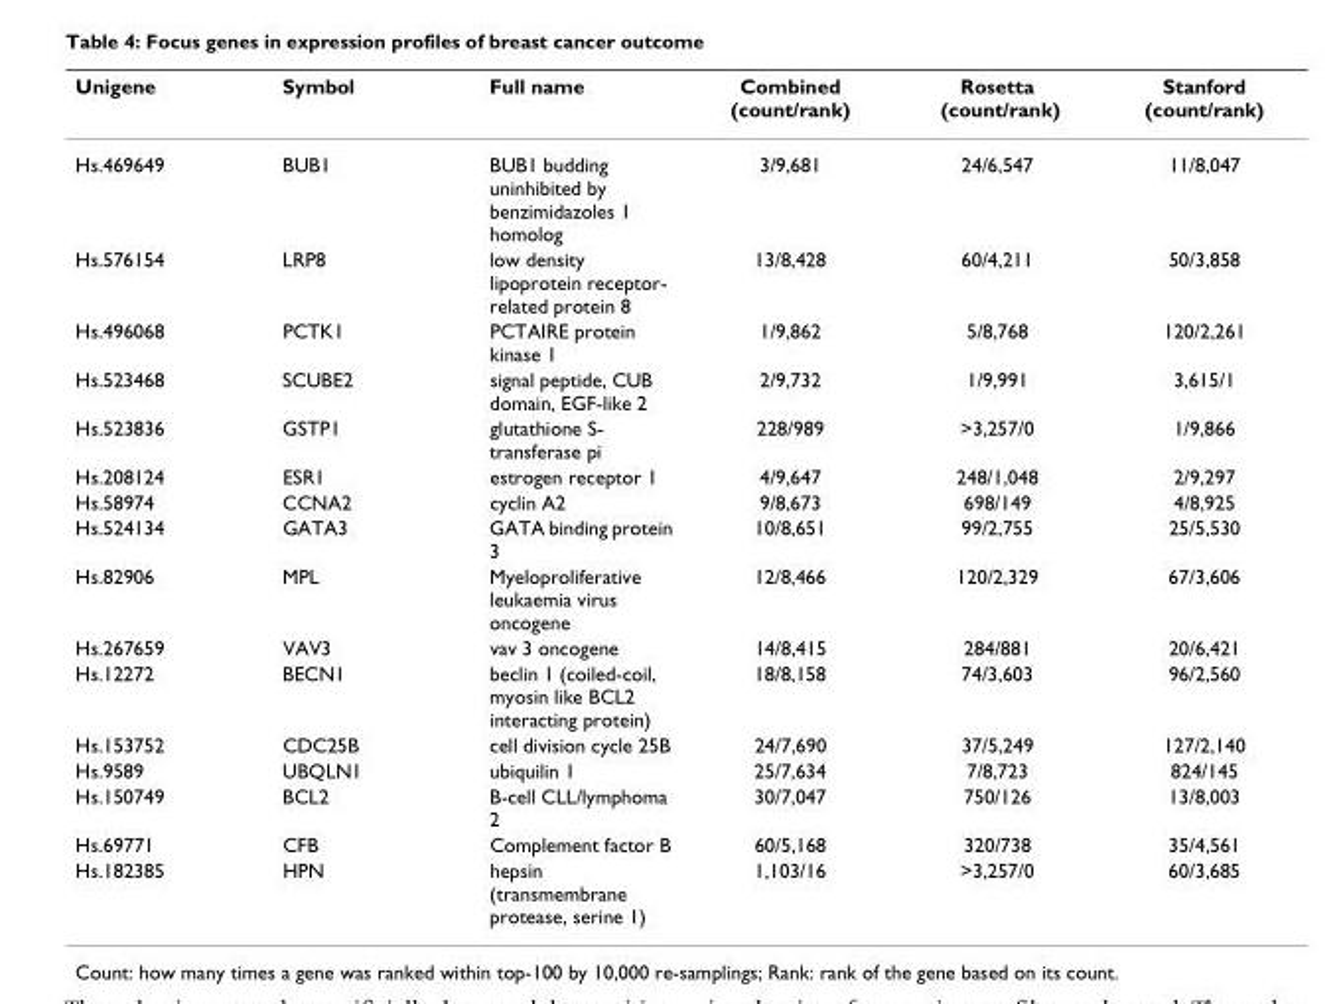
<table><thead><tr><td>Unigene</td><td>Symbol</td><td>Full name</td><td>Combined (count/rank)</td><td>Rosetta (count/rank)</td><td>Stanford (count/rank)</td></tr></thead><tbody><tr><td>Hs.469649</td><td>BUB1</td><td>BUB1 budding uninhibited by benzimidazoles 1 homolog</td><td>3/9,681</td><td>24/6,547</td><td>11/8,047</td></tr><tr><td>Hs.576154</td><td>LRP8</td><td>low density lipoprotein receptor- related protein 8</td><td>13/8,428</td><td>60/4,211</td><td>50/3,858</td></tr><tr><td>Hs.496068</td><td>PCTK1</td><td>PCTAIRE protein kinase 1</td><td>1/9,862</td><td>5/8,768</td><td>120/2,261</td></tr><tr><td>Hs.523468</td><td>SCUBE2</td><td>signal peptide, CUB domain, EGF-like 2</td><td>2/9,732</td><td>1/9,991</td><td>3,615/1</td></tr><tr><td>Hs.523836</td><td>GSTP1</td><td>glutathione S- transferase pi</td><td>228/989</td><td>&gt;3,257/0</td><td>1/9,866</td></tr><tr><td>Hs.208124</td><td>ESR1</td><td>estrogen receptor 1</td><td>4/9,647</td><td>248/1,048</td><td>2/9,297</td></tr><tr><td>Hs.58974</td><td>CCNA2</td><td>cyclin A2</td><td>9/8,673</td><td>698/149</td><td>4/8,925</td></tr><tr><td>Hs.524134</td><td>GATA3</td><td>GATA binding protein 3</td><td>10/8,651</td><td>99/2,755</td><td>25/5,530</td></tr><tr><td>Hs.82906</td><td>MPL</td><td>Myeloproliferative leukaemia virus oncogene</td><td>12/8,466</td><td>120/2,329</td><td>67/3,606</td></tr><tr><td>Hs.267659</td><td>VAV3</td><td>vav 3 oncogene</td><td>14/8,415</td><td>284/881</td><td>20/6,421</td></tr><tr><td>Hs.12272</td><td>BECN1</td><td>beclin 1 (coiled-coil, myosin like BCL2 interacting protein)</td><td>18/8,158</td><td>74/3,603</td><td>96/2,560</td></tr><tr><td>Hs.153752</td><td>CDC25B</td><td>cell division cycle 25B</td><td>24/7,690</td><td>37/5,249</td><td>127/2,140</td></tr><tr><td>Hs.9589</td><td>UBQLN1</td><td>ubiquilin 1</td><td>25/7,634</td><td>7/8,723</td><td>824/145</td></tr><tr><td>Hs.150749</td><td>BCL2</td><td>B-cell CLL/lymphoma 2</td><td>30/7,047</td><td>750/126</td><td>13/8,003</td></tr><tr><td>Hs.69771</td><td>CFB</td><td>Complement factor B</td><td>60/5,168</td><td>320/738</td><td>35/4,561</td></tr><tr><td>Hs.182385</td><td>HPN</td><td>hepsin (transmembrane protease, serine 1)</td><td>1,103/16</td><td>&gt;3,257/0</td><td>60/3,685</td></tr></tbody></table>